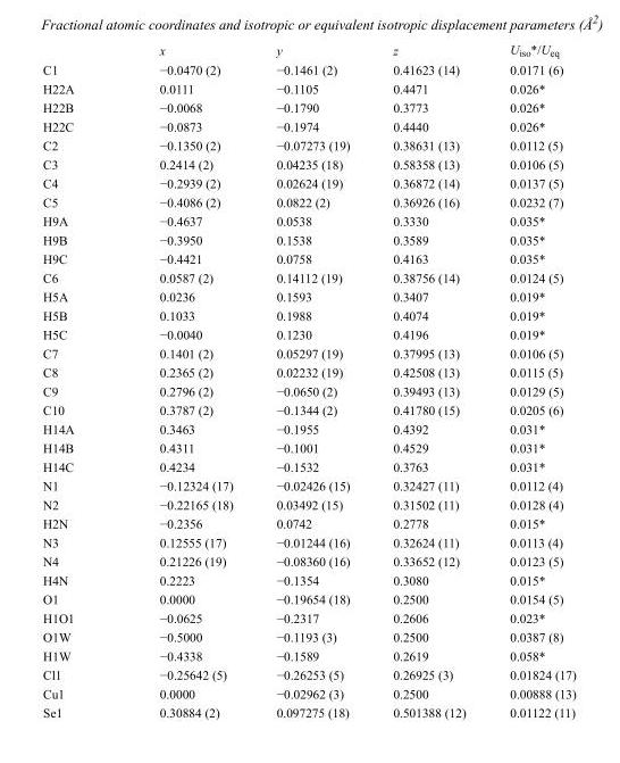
<table><thead><tr><td></td><td>x</td><td>y</td><td>z</td><td>U<sub>iso</sub>*/U<sub>eq</sub></td></tr></thead><tbody><tr><td>C1</td><td>−0.0470 (2)</td><td>−0.1461 (2)</td><td>0.41623 (14)</td><td>0.0171 (6)</td></tr><tr><td>H22A</td><td>0.0111</td><td>−0.1105</td><td>0.4471</td><td>0.026*</td></tr><tr><td>H22B</td><td>−0.0068</td><td>−0.1790</td><td>0.3773</td><td>0.026*</td></tr><tr><td>H22C</td><td>−0.0873</td><td>−0.1974</td><td>0.4440</td><td>0.026*</td></tr><tr><td>C2</td><td>−0.1350 (2)</td><td>−0.07273 (19)</td><td>0.38631 (13)</td><td>0.0112 (5)</td></tr><tr><td>C3</td><td>0.2414 (2)</td><td>0.04235 (18)</td><td>0.58358 (13)</td><td>0.0106 (5)</td></tr><tr><td>C4</td><td>−0.2939 (2)</td><td>0.02624 (19)</td><td>0.36872 (14)</td><td>0.0137 (5)</td></tr><tr><td>C5</td><td>−0.4086 (2)</td><td>0.0822 (2)</td><td>0.36926 (16)</td><td>0.0232 (7)</td></tr><tr><td>H9A</td><td>−0.4637</td><td>0.0538</td><td>0.3330</td><td>0.035*</td></tr><tr><td>H9B</td><td>−0.3950</td><td>0.1538</td><td>0.3589</td><td>0.035*</td></tr><tr><td>H9C</td><td>−0.4421</td><td>0.0758</td><td>0.4163</td><td>0.035*</td></tr><tr><td>C6</td><td>0.0587 (2)</td><td>0.14112 (19)</td><td>0.38756 (14)</td><td>0.0124 (5)</td></tr><tr><td>H5A</td><td>0.0236</td><td>0.1593</td><td>0.3407</td><td>0.019*</td></tr><tr><td>H5B</td><td>0.1033</td><td>0.1988</td><td>0.4074</td><td>0.019*</td></tr><tr><td>H5C</td><td>−0.0040</td><td>0.1230</td><td>0.4196</td><td>0.019*</td></tr><tr><td>C7</td><td>0.1401 (2)</td><td>0.05297 (19)</td><td>0.37995 (13)</td><td>0.0106 (5)</td></tr><tr><td>C8</td><td>0.2365 (2)</td><td>0.02232 (19)</td><td>0.42508 (13)</td><td>0.0115 (5)</td></tr><tr><td>C9</td><td>0.2796 (2)</td><td>−0.0650 (2)</td><td>0.39493 (13)</td><td>0.0129 (5)</td></tr><tr><td>C10</td><td>0.3787 (2)</td><td>−0.1344 (2)</td><td>0.41780 (15)</td><td>0.0205 (6)</td></tr><tr><td>H14A</td><td>0.3463</td><td>−0.1955</td><td>0.4392</td><td>0.031*</td></tr><tr><td>H14B</td><td>0.4311</td><td>−0.1001</td><td>0.4529</td><td>0.031*</td></tr><tr><td>H14C</td><td>0.4234</td><td>−0.1532</td><td>0.3763</td><td>0.031*</td></tr><tr><td>N1</td><td>−0.12324 (17)</td><td>−0.02426 (15)</td><td>0.32427 (11)</td><td>0.0112 (4)</td></tr><tr><td>N2</td><td>−0.22165 (18)</td><td>0.03492 (15)</td><td>0.31502 (11)</td><td>0.0128 (4)</td></tr><tr><td>H2N</td><td>−0.2356</td><td>0.0742</td><td>0.2778</td><td>0.015*</td></tr><tr><td>N3</td><td>0.12555 (17)</td><td>−0.01244 (16)</td><td>0.32624 (11)</td><td>0.0113 (4)</td></tr><tr><td>N4</td><td>0.21226 (19)</td><td>−0.08360 (16)</td><td>0.33652 (12)</td><td>0.0123 (5)</td></tr><tr><td>H4N</td><td>0.2223</td><td>−0.1354</td><td>0.3080</td><td>0.015*</td></tr><tr><td>O1</td><td>0.0000</td><td>−0.19654 (18)</td><td>0.2500</td><td>0.0154 (5)</td></tr><tr><td>H1O1</td><td>−0.0625</td><td>−0.2317</td><td>0.2606</td><td>0.023*</td></tr><tr><td>O1W</td><td>−0.5000</td><td>−0.1193 (3)</td><td>0.2500</td><td>0.0387 (8)</td></tr><tr><td>H1W</td><td>−0.4338</td><td>−0.1589</td><td>0.2619</td><td>0.058*</td></tr><tr><td>Cl1</td><td>−0.25642 (5)</td><td>−0.26253 (5)</td><td>0.26925 (3)</td><td>0.01824 (17)</td></tr><tr><td>Cu1</td><td>0.0000</td><td>−0.02962 (3)</td><td>0.2500</td><td>0.00888 (13)</td></tr><tr><td>Se1</td><td>0.30884 (2)</td><td>0.097275 (18)</td><td>0.501388 (12)</td><td>0.01122 (11)</td></tr></tbody></table>